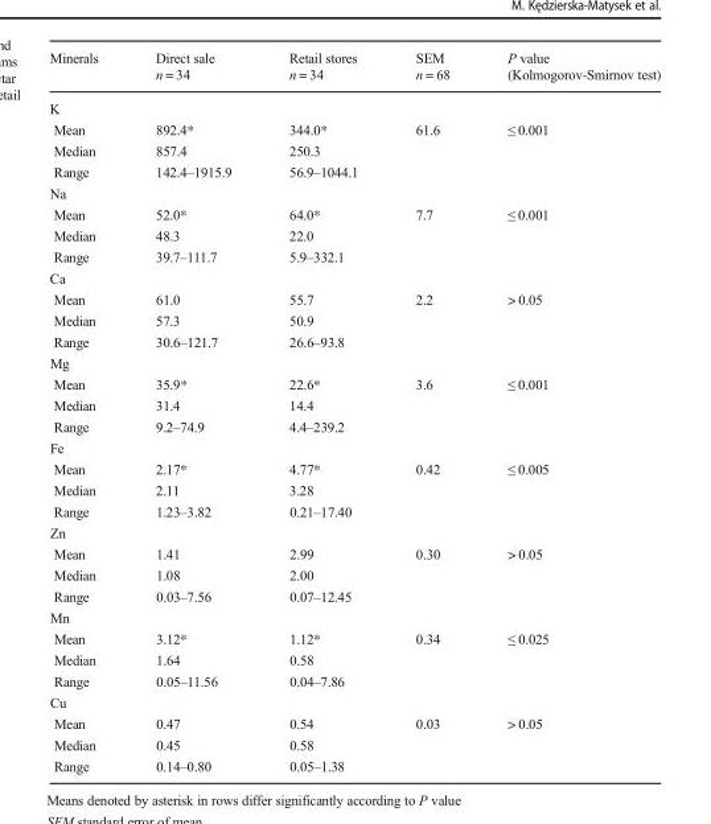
<table><thead><tr><td rowspan="2">Minerals</td><td rowspan="2">Direct sale n = 34</td><td rowspan="2">Retail stores n = 34</td><td rowspan="2">SEM n = 68</td><td rowspan="2">P value (Kolmogorov-Smirnov test)</td></tr><tr></tr></thead><tbody><tr><td colspan="5">K</td></tr><tr><td>Mean</td><td>892.4*</td><td>344.0*</td><td>61.6</td><td>≤ 0.001</td></tr><tr><td>Median</td><td>857.4</td><td>250.3</td><td></td><td></td></tr><tr><td>Range</td><td>142.4–1915.9</td><td>56.9–1044.1</td><td></td><td></td></tr><tr><td colspan="5">Na</td></tr><tr><td>Mean</td><td>52.0*</td><td>64.0*</td><td>7.7</td><td>≤ 0.001</td></tr><tr><td>Median</td><td>48.3</td><td>22.0</td><td></td><td></td></tr><tr><td>Range</td><td>39.7–111.7</td><td>5.9–332.1</td><td></td><td></td></tr><tr><td colspan="5">Ca</td></tr><tr><td>Mean</td><td>61.0</td><td>55.7</td><td>2.2</td><td>&gt; 0.05</td></tr><tr><td>Median</td><td>57.3</td><td>50.9</td><td></td><td></td></tr><tr><td>Range</td><td>30.6–121.7</td><td>26.6–93.8</td><td></td><td></td></tr><tr><td colspan="5">Mg</td></tr><tr><td>Mean</td><td>35.9*</td><td>22.6*</td><td>3.6</td><td>≤ 0.001</td></tr><tr><td>Median</td><td>31.4</td><td>14.4</td><td></td><td></td></tr><tr><td>Range</td><td>9.2–74.9</td><td>4.4–239.2</td><td></td><td></td></tr><tr><td colspan="5">Fe</td></tr><tr><td>Mean</td><td>2.17*</td><td>4.77*</td><td>0.42</td><td>≤ 0.005</td></tr><tr><td>Median</td><td>2.11</td><td>3.28</td><td></td><td></td></tr><tr><td>Range</td><td>1.23–3.82</td><td>0.21–17.40</td><td></td><td></td></tr><tr><td colspan="5">Zn</td></tr><tr><td>Mean</td><td>1.41</td><td>2.99</td><td>0.30</td><td>&gt; 0.05</td></tr><tr><td>Median</td><td>1.08</td><td>2.00</td><td></td><td></td></tr><tr><td>Range</td><td>0.03–7.56</td><td>0.07–12.45</td><td></td><td></td></tr><tr><td colspan="5">Mn</td></tr><tr><td>Mean</td><td>3.12*</td><td>1.12*</td><td>0.34</td><td>≤ 0.025</td></tr><tr><td>Median</td><td>1.64</td><td>0.58</td><td></td><td></td></tr><tr><td>Range</td><td>0.05–11.56</td><td>0.04–7.86</td><td></td><td></td></tr><tr><td colspan="5">Cu</td></tr><tr><td>Mean</td><td>0.47</td><td>0.54</td><td>0.03</td><td>&gt; 0.05</td></tr><tr><td>Median</td><td>0.45</td><td>0.58</td><td></td><td></td></tr><tr><td>Range</td><td>0.14–0.80</td><td>0.05–1.38</td><td></td><td></td></tr></tbody></table>